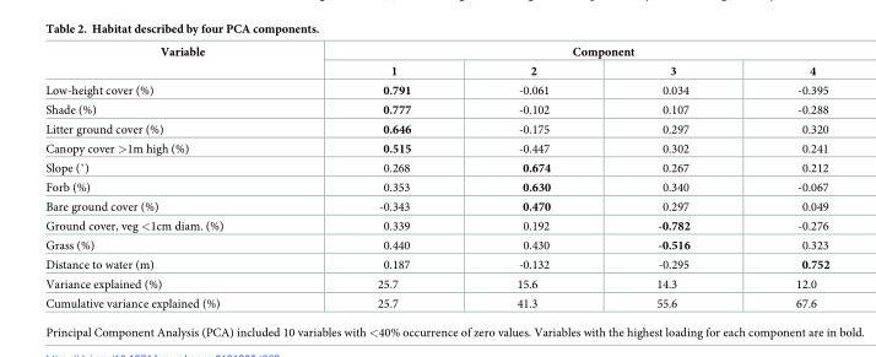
<table><thead><tr><td rowspan="2">Variable</td><td colspan="4">Component</td></tr><tr><td>1</td><td>2</td><td>3</td><td>4</td></tr></thead><tbody><tr><td>Low-height cover (%)</td><td>0.791</td><td>-0.061</td><td>0.034</td><td>-0.395</td></tr><tr><td>Shade (%)</td><td>0.777</td><td>-0.102</td><td>0.107</td><td>-0.288</td></tr><tr><td>Litter ground cover (%)</td><td>0.646</td><td>-0.175</td><td>0.297</td><td>0.320</td></tr><tr><td>Canopy cover &gt;1m high (%)</td><td>0.515</td><td>-0.447</td><td>0.302</td><td>0.241</td></tr><tr><td>Slope (˚)</td><td>0.268</td><td>0.674</td><td>0.267</td><td>0.212</td></tr><tr><td>Forb (%)</td><td>0.353</td><td>0.630</td><td>0.340</td><td>-0.067</td></tr><tr><td>Bare ground cover (%)</td><td>-0.343</td><td>0.470</td><td>0.297</td><td>0.049</td></tr><tr><td>Ground cover, veg &lt;1cm diam. (%)</td><td>0.339</td><td>0.192</td><td>-0.782</td><td>-0.276</td></tr><tr><td>Grass (%)</td><td>0.440</td><td>0.430</td><td>-0.516</td><td>0.323</td></tr><tr><td>Distance to water (m)</td><td>0.187</td><td>-0.132</td><td>-0.295</td><td>0.752</td></tr><tr><td>Variance explained (%)</td><td>25.7</td><td>15.6</td><td>14.3</td><td>12.0</td></tr><tr><td>Cumulative variance explained (%)</td><td>25.7</td><td>41.3</td><td>55.6</td><td>67.6</td></tr></tbody></table>